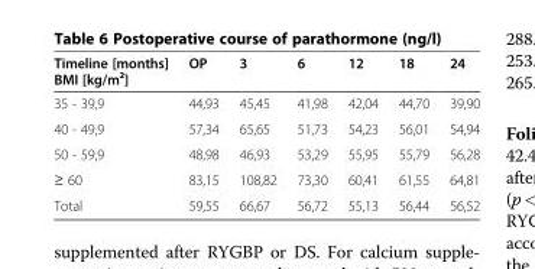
<table><thead><tr><td>Timeline [months] BMI [kg/m²]</td><td>OP</td><td>3</td><td>6</td><td>12</td><td>18</td><td>24</td></tr></thead><tbody><tr><td>35 - 39,9</td><td>44,93</td><td>45,45</td><td>41,98</td><td>42,04</td><td>44,70</td><td>39,90</td></tr><tr><td>40 - 49,9</td><td>57,34</td><td>65,65</td><td>51,73</td><td>54,23</td><td>56,01</td><td>54,94</td></tr><tr><td>50 - 59,9</td><td>48,98</td><td>46,93</td><td>53,29</td><td>55,95</td><td>55,79</td><td>56,28</td></tr><tr><td>≥ 60</td><td>83,15</td><td>108,82</td><td>73,30</td><td>60,41</td><td>61,55</td><td>64,81</td></tr><tr><td>Total</td><td>59,55</td><td>66,67</td><td>56,72</td><td>55,13</td><td>56,44</td><td>56,52</td></tr></tbody></table>